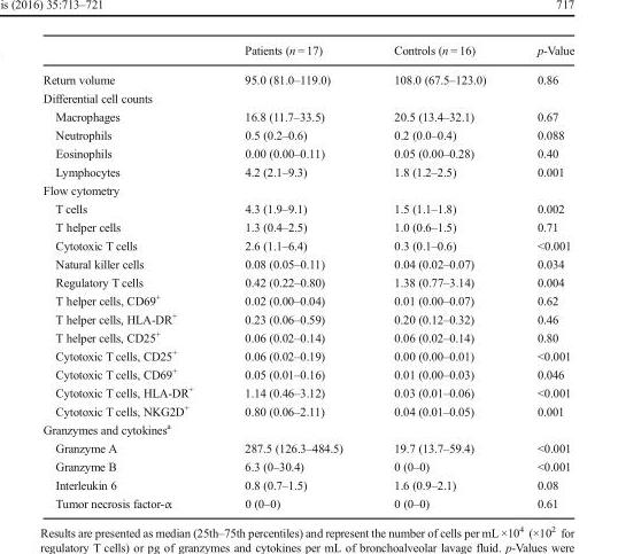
<table><thead><tr><td></td><td>Patients (n = 17)</td><td>Controls (n = 16)</td><td>p-Value</td></tr></thead><tbody><tr><td>Return volume</td><td>95.0 (81.0–119.0)</td><td>108.0 (67.5–123.0)</td><td>0.86</td></tr><tr><td colspan="4">Differential cell counts</td></tr><tr><td>Macrophages</td><td>16.8 (11.7–33.5)</td><td>20.5 (13.4–32.1)</td><td>0.67</td></tr><tr><td>Neutrophils</td><td>0.5 (0.2–0.6)</td><td>0.2 (0.0–0.4)</td><td>0.088</td></tr><tr><td>Eosinophils</td><td>0.00 (0.00–0.11)</td><td>0.05 (0.00–0.28)</td><td>0.40</td></tr><tr><td>Lymphocytes</td><td>4.2 (2.1–9.3)</td><td>1.8 (1.2–2.5)</td><td>0.001</td></tr><tr><td colspan="4">Flow cytometry</td></tr><tr><td>T cells</td><td>4.3 (1.9–9.1)</td><td>1.5 (1.1–1.8)</td><td>0.002</td></tr><tr><td>T helper cells</td><td>1.3 (0.4–2.5)</td><td>1.0 (0.6–1.5)</td><td>0.71</td></tr><tr><td>Cytotoxic T cells</td><td>2.6 (1.1–6.4)</td><td>0.3 (0.1–0.6)</td><td>&lt;0.001</td></tr><tr><td>Natural killer cells</td><td>0.08 (0.05–0.11)</td><td>0.04 (0.02–0.07)</td><td>0.034</td></tr><tr><td>Regulatory T cells</td><td>0.42 (0.22–0.80)</td><td>1.38 (0.77–3.14)</td><td>0.004</td></tr><tr><td>T helper cells, CD69<sup>+</sup></td><td>0.02 (0.00–0.04)</td><td>0.01 (0.00–0.07)</td><td>0.62</td></tr><tr><td>T helper cells, HLA-DR<sup>+</sup></td><td>0.23 (0.06–0.59)</td><td>0.20 (0.12–0.32)</td><td>0.46</td></tr><tr><td>T helper cells, CD25<sup>+</sup></td><td>0.06 (0.02–0.14)</td><td>0.06 (0.02–0.14)</td><td>0.80</td></tr><tr><td>Cytotoxic T cells, CD25<sup>+</sup></td><td>0.06 (0.02–0.19)</td><td>0.00 (0.00–0.01)</td><td>&lt;0.001</td></tr><tr><td>Cytotoxic T cells, CD69<sup>+</sup></td><td>0.05 (0.01–0.16)</td><td>0.01 (0.00–0.03)</td><td>0.046</td></tr><tr><td>Cytotoxic T cells, HLA-DR<sup>+</sup></td><td>1.14 (0.46–3.12)</td><td>0.03 (0.01–0.06)</td><td>&lt;0.001</td></tr><tr><td>Cytotoxic T cells, NKG2D<sup>+</sup></td><td>0.80 (0.06–2.11)</td><td>0.04 (0.01–0.05)</td><td>0.001</td></tr><tr><td colspan="4">Granzymes and cytokines<sup>a</sup></td></tr><tr><td>Granzyme A</td><td>287.5 (126.3–484.5)</td><td>19.7 (13.7–59.4)</td><td>&lt;0.001</td></tr><tr><td>Granzyme B</td><td>6.3 (0–30.4)</td><td>0 (0–0)</td><td>&lt;0.001</td></tr><tr><td>Interleukin 6</td><td>0.8 (0.7–1.5)</td><td>1.6 (0.9–2.1)</td><td>0.08</td></tr><tr><td>Tumor necrosis factor-α</td><td>0 (0–0)</td><td>0 (0–0)</td><td>0.61</td></tr></tbody></table>